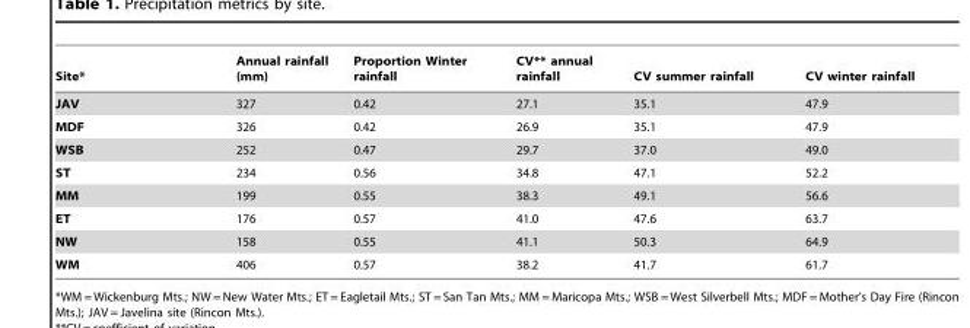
<table><thead><tr><td>Site*</td><td>Annual rainfall (mm)</td><td>Proportion Winter rainfall</td><td>CV** annual rainfall</td><td>CV summer rainfall</td><td>CV winter rainfall</td></tr></thead><tbody><tr><td>JAV</td><td>327</td><td>0.42</td><td>27.1</td><td>35.1</td><td>47.9</td></tr><tr><td>MDF</td><td>326</td><td>0.42</td><td>26.9</td><td>35.1</td><td>47.9</td></tr><tr><td>WSB</td><td>252</td><td>0.47</td><td>29.7</td><td>37.0</td><td>49.0</td></tr><tr><td>ST</td><td>234</td><td>0.56</td><td>34.8</td><td>47.1</td><td>52.2</td></tr><tr><td>MM</td><td>199</td><td>0.55</td><td>38.3</td><td>49.1</td><td>56.6</td></tr><tr><td>ET</td><td>176</td><td>0.57</td><td>41.0</td><td>47.6</td><td>63.7</td></tr><tr><td>NW</td><td>158</td><td>0.55</td><td>41.1</td><td>50.3</td><td>64.9</td></tr><tr><td>WM</td><td>406</td><td>0.57</td><td>38.2</td><td>41.7</td><td>61.7</td></tr></tbody></table>